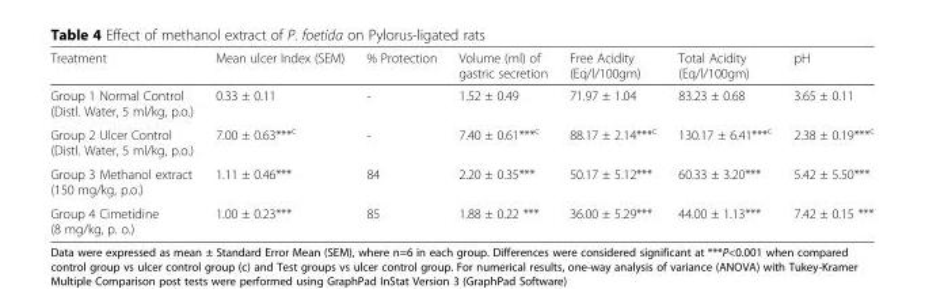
<table><thead><tr><td>Treatment</td><td>Mean ulcer Index (SEM)</td><td>% Protection</td><td>Volume (ml) of gastric secretion</td><td>Free Acidity (Eq/l/100gm)</td><td>Total Acidity (Eq/l/100gm)</td><td>pH</td></tr></thead><tbody><tr><td>Group 1 Normal Control (Distl. Water, 5 ml/kg, p.o.)</td><td>0.33 ± 0.11</td><td>-</td><td>1.52 ± 0.49</td><td>71.97 ± 1.04</td><td>83.23 ± 0.68</td><td>3.65 ± 0.11</td></tr><tr><td>Group 2 Ulcer Control (Distl. Water, 5 ml/kg, p.o.)</td><td>7.00 ± 0.63***<sup>c</sup></td><td>-</td><td>7.40 ± 0.61***<sup>c</sup></td><td>88.17 ± 2.14***<sup>c</sup></td><td>130.17 ± 6.41***<sup>c</sup></td><td>2.38 ± 0.19***<sup>c</sup></td></tr><tr><td>Group 3 Methanol extract (150 mg/kg, p.o.)</td><td>1.11 ± 0.46***</td><td>84</td><td>2.20 ± 0.35***</td><td>50.17 ± 5.12***</td><td>60.33 ± 3.20***</td><td>5.42 ± 5.50***</td></tr><tr><td>Group 4 Cimetidine (8 mg/kg, p. o.)</td><td>1.00 ± 0.23***</td><td>85</td><td>1.88 ± 0.22 ***</td><td>36.00 ± 5.29***</td><td>44.00 ± 1.13***</td><td>7.42 ± 0.15 ***</td></tr></tbody></table>